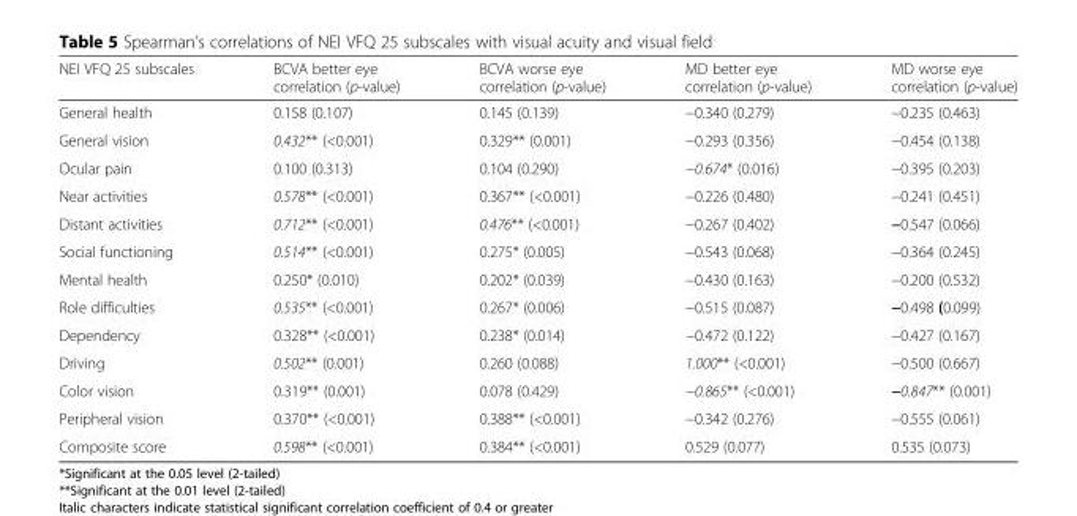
<table><thead><tr><td>NEI VFQ 25 subscales</td><td>BCVA better eye correlation (p-value)</td><td>BCVA worse eye correlation (p-value)</td><td>MD better eye correlation (p-value)</td><td>MD worse eye correlation (p-value)</td></tr></thead><tbody><tr><td>General health</td><td>0.158 (0.107)</td><td>0.145 (0.139)</td><td>−0.340 (0.279)</td><td>−0.235 (0.463)</td></tr><tr><td>General vision</td><td>0.432** (&lt;0.001)</td><td>0.329** (0.001)</td><td>−0.293 (0.356)</td><td>−0.454 (0.138)</td></tr><tr><td>Ocular pain</td><td>0.100 (0.313)</td><td>0.104 (0.290)</td><td>−0.674* (0.016)</td><td>−0.395 (0.203)</td></tr><tr><td>Near activities</td><td>0.578** (&lt;0.001)</td><td>0.367** (&lt;0.001)</td><td>−0.226 (0.480)</td><td>−0.241 (0.451)</td></tr><tr><td>Distant activities</td><td>0.712** (&lt;0.001)</td><td>0.476** (&lt;0.001)</td><td>−0.267 (0.402)</td><td>−0.547 (0.066)</td></tr><tr><td>Social functioning</td><td>0.514** (&lt;0.001)</td><td>0.275* (0.005)</td><td>−0.543 (0.068)</td><td>−0.364 (0.245)</td></tr><tr><td>Mental health</td><td>0.250* (0.010)</td><td>0.202* (0.039)</td><td>−0.430 (0.163)</td><td>−0.200 (0.532)</td></tr><tr><td>Role difficulties</td><td>0.535** (&lt;0.001)</td><td>0.267* (0.006)</td><td>−0.515 (0.087)</td><td>−0.498 (0.099)</td></tr><tr><td>Dependency</td><td>0.328** (&lt;0.001)</td><td>0.238* (0.014)</td><td>−0.472 (0.122)</td><td>−0.427 (0.167)</td></tr><tr><td>Driving</td><td>0.502** (0.001)</td><td>0.260 (0.088)</td><td>1.000** (&lt;0.001)</td><td>−0.500 (0.667)</td></tr><tr><td>Color vision</td><td>0.319** (0.001)</td><td>0.078 (0.429)</td><td>−0.865** (&lt;0.001)</td><td>−0.847** (0.001)</td></tr><tr><td>Peripheral vision</td><td>0.370** (&lt;0.001)</td><td>0.388** (&lt;0.001)</td><td>−0.342 (0.276)</td><td>−0.555 (0.061)</td></tr><tr><td>Composite score</td><td>0.598** (&lt;0.001)</td><td>0.384** (&lt;0.001)</td><td>0.529 (0.077)</td><td>0.535 (0.073)</td></tr></tbody></table>